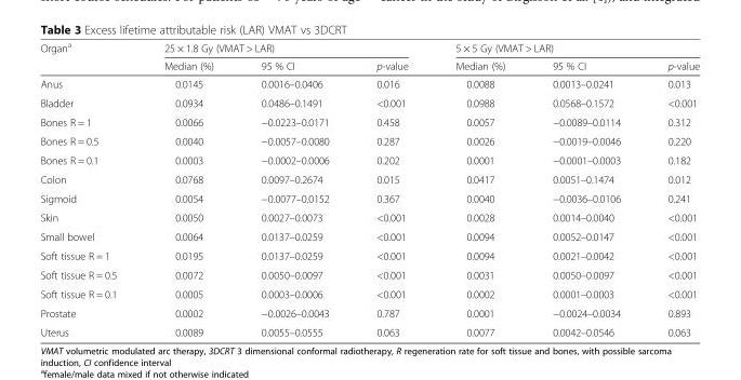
<table><thead><tr><td rowspan="2">Organ<sup>a</sup></td><td colspan="3">25 × 1.8 Gy (VMAT &gt; LAR)</td><td colspan="3">5 × 5 Gy (VMAT &gt; LAR)</td></tr><tr><td>Median (%)</td><td>95 % CI</td><td>p-value</td><td>Median (%)</td><td>95 % CI</td><td>p-value</td></tr></thead><tbody><tr><td>Anus</td><td>0.0145</td><td>0.0016–0.0406</td><td>0.016</td><td>0.0088</td><td>0.0013–0.0241</td><td>0.013</td></tr><tr><td>Bladder</td><td>0.0934</td><td>0.0486–0.1491</td><td>&lt;0.001</td><td>0.0988</td><td>0.0568–0.1572</td><td>&lt;0.001</td></tr><tr><td>Bones R = 1</td><td>0.0066</td><td>−0.0223–0.0171</td><td>0.458</td><td>0.0057</td><td>−0.0089–0.0114</td><td>0.312</td></tr><tr><td>Bones R = 0.5</td><td>0.0040</td><td>−0.0057–0.0080</td><td>0.287</td><td>0.0026</td><td>−0.0019–0.0046</td><td>0.220</td></tr><tr><td>Bones R = 0.1</td><td>0.0003</td><td>−0.0002–0.0006</td><td>0.202</td><td>0.0001</td><td>−0.0001–0.0003</td><td>0.182</td></tr><tr><td>Colon</td><td>0.0768</td><td>0.0097–0.2674</td><td>0.015</td><td>0.0417</td><td>0.0051–0.1474</td><td>0.012</td></tr><tr><td>Sigmoid</td><td>0.0054</td><td>−0.0077–0.0152</td><td>0.367</td><td>0.0040</td><td>−0.0036–0.0106</td><td>0.241</td></tr><tr><td>Skin</td><td>0.0050</td><td>0.0027–0.0073</td><td>&lt;0.001</td><td>0.0028</td><td>0.0014–0.0040</td><td>&lt;0.001</td></tr><tr><td>Small bowel</td><td>0.0064</td><td>0.0137–0.0259</td><td>&lt;0.001</td><td>0.0094</td><td>0.0052–0.0147</td><td>&lt;0.001</td></tr><tr><td>Soft tissue R = 1</td><td>0.0195</td><td>0.0137–0.0259</td><td>&lt;0.001</td><td>0.0094</td><td>0.0021–0.0042</td><td>&lt;0.001</td></tr><tr><td>Soft tissue R = 0.5</td><td>0.0072</td><td>0.0050–0.0097</td><td>&lt;0.001</td><td>0.0031</td><td>0.0050–0.0097</td><td>&lt;0.001</td></tr><tr><td>Soft tissue R = 0.1</td><td>0.0005</td><td>0.0003–0.0006</td><td>&lt;0.001</td><td>0.0002</td><td>0.0001–0.0003</td><td>&lt;0.001</td></tr><tr><td>Prostate</td><td>0.0002</td><td>−0.0026–0.0043</td><td>0.787</td><td>0.0001</td><td>−0.0024–0.0034</td><td>0.893</td></tr><tr><td>Uterus</td><td>0.0089</td><td>0.0055–0.0555</td><td>0.063</td><td>0.0077</td><td>0.0042–0.0546</td><td>0.063</td></tr></tbody></table>